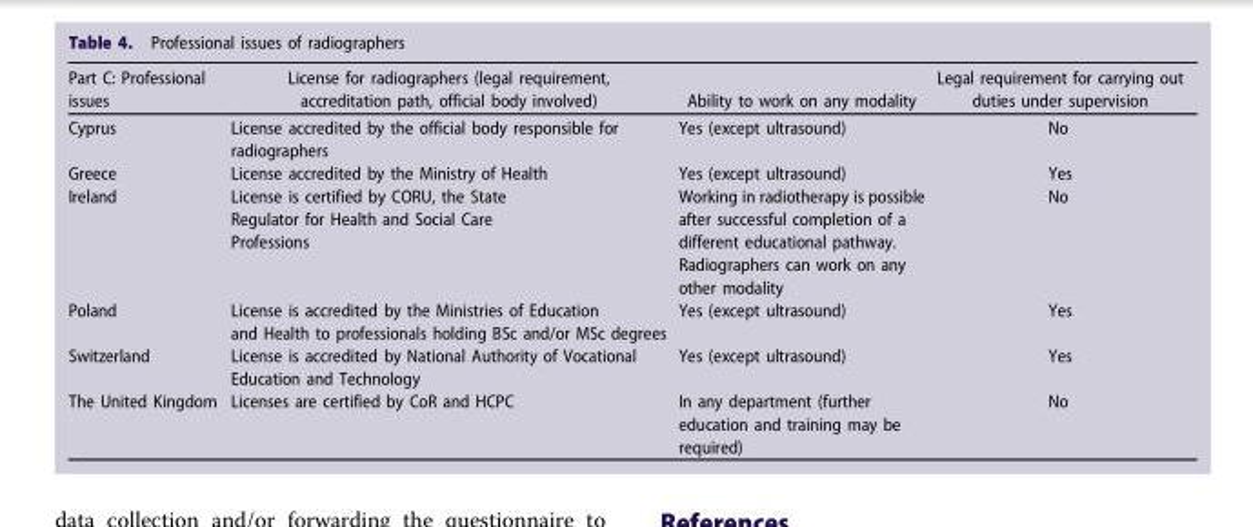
<table><thead><tr><td>Part C: Professional issues</td><td>License for radiographers (legal requirement, accreditation path, official body involved)</td><td>Ability to work on any modality</td><td>Legal requirement for carrying out duties under supervision</td></tr></thead><tbody><tr><td>Cyprus</td><td>License accredited by the official body responsible for radiographers</td><td>Yes (except ultrasound)</td><td>No</td></tr><tr><td>Greece</td><td>License accredited by the Ministry of Health</td><td>Yes (except ultrasound)</td><td>Yes</td></tr><tr><td>Ireland</td><td>License is certified by CORU, the State Regulator for Health and Social Care Professions</td><td>Working in radiotherapy is possible after successful completion of a different educational pathway. Radiographers can work on any other modality</td><td>No</td></tr><tr><td>Poland</td><td>License is accredited by the Ministries of Education and Health to professionals holding BSc and/or MSc degrees</td><td>Yes (except ultrasound)</td><td>Yes</td></tr><tr><td>Switzerland</td><td>License is accredited by National Authority of Vocational Education and Technology</td><td>Yes (except ultrasound)</td><td>Yes</td></tr><tr><td>The United Kingdom</td><td>Licenses are certified by CoR and HCPC</td><td>In any department (further education and training may be required)</td><td>No</td></tr></tbody></table>